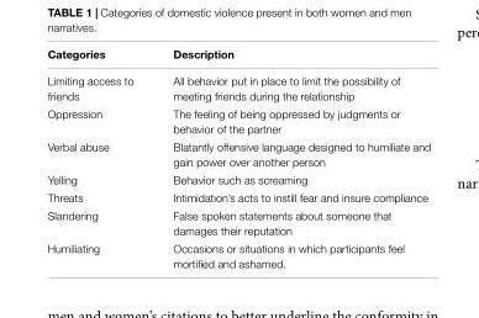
<table><thead><tr><td>Categories</td><td>Description</td></tr></thead><tbody><tr><td>Limiting access to friends</td><td>All behavior put in place to limit the possibility of meeting friends during the relationship</td></tr><tr><td>Oppression</td><td>The feeling of being oppressed by judgments or behavior of the partner</td></tr><tr><td>Verbal abuse</td><td>Blatantly offensive language designed to humiliate and gain power over another person</td></tr><tr><td>Yelling</td><td>Behavior such as screaming</td></tr><tr><td>Threats</td><td>Intimidation’s acts to instill fear and insure compliance</td></tr><tr><td>Slandering</td><td>False spoken statements about someone that damages their reputation</td></tr><tr><td>Humiliating</td><td>Occasions or situations in which participants feel mortified and ashamed.</td></tr></tbody></table>